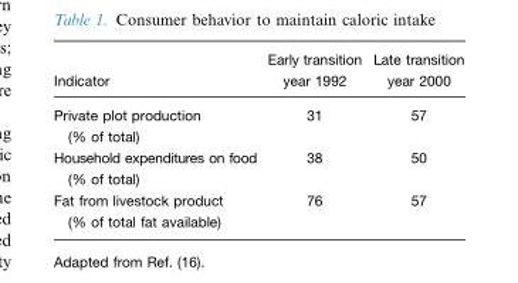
<table><thead><tr><td>Indicator</td><td>Early transition year 1992</td><td>Late transition year 2000</td></tr></thead><tbody><tr><td>Private plot production (% of total)</td><td>31</td><td>57</td></tr><tr><td>Household expenditures on food (% of total)</td><td>38</td><td>50</td></tr><tr><td>Fat from livestock product (% of total fat available)</td><td>76</td><td>57</td></tr></tbody></table>